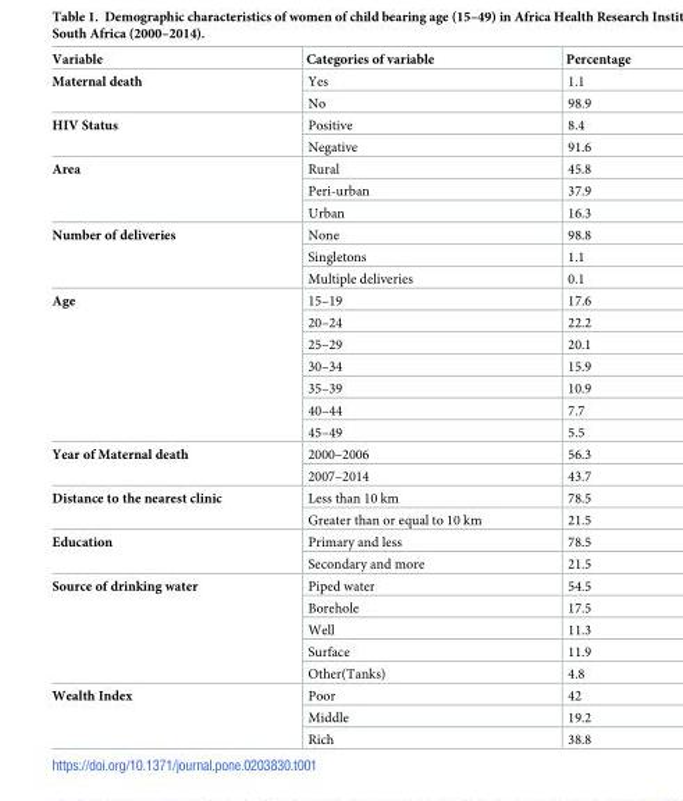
<table><thead><tr><td>Variable</td><td>Categories of variable</td><td>Percentage</td></tr></thead><tbody><tr><td rowspan="2">Maternal death</td><td>Yes</td><td>1.1</td></tr><tr><td>No</td><td>98.9</td></tr><tr><td rowspan="2">HIV Status</td><td>Positive</td><td>8.4</td></tr><tr><td>Negative</td><td>91.6</td></tr><tr><td rowspan="3">Area</td><td>Rural</td><td>45.8</td></tr><tr><td>Peri-urban</td><td>37.9</td></tr><tr><td>Urban</td><td>16.3</td></tr><tr><td rowspan="3">Number of deliveries</td><td>None</td><td>98.8</td></tr><tr><td>Singletons</td><td>1.1</td></tr><tr><td>Multiple deliveries</td><td>0.1</td></tr><tr><td rowspan="7">Age</td><td>15–19</td><td>17.6</td></tr><tr><td>20–24</td><td>22.2</td></tr><tr><td>25–29</td><td>20.1</td></tr><tr><td>30–34</td><td>15.9</td></tr><tr><td>35–39</td><td>10.9</td></tr><tr><td>40–44</td><td>7.7</td></tr><tr><td>45–49</td><td>5.5</td></tr><tr><td rowspan="2">Year of Maternal death</td><td>2000–2006</td><td>56.3</td></tr><tr><td>2007–2014</td><td>43.7</td></tr><tr><td rowspan="2">Distance to the nearest clinic</td><td>Less than 10 km</td><td>78.5</td></tr><tr><td>Greater than or equal to 10 km</td><td>21.5</td></tr><tr><td rowspan="2">Education</td><td>Primary and less</td><td>78.5</td></tr><tr><td>Secondary and more</td><td>21.5</td></tr><tr><td rowspan="5">Source of drinking water</td><td>Piped water</td><td>54.5</td></tr><tr><td>Borehole</td><td>17.5</td></tr><tr><td>Well</td><td>11.3</td></tr><tr><td>Surface</td><td>11.9</td></tr><tr><td>Other(Tanks)</td><td>4.8</td></tr><tr><td rowspan="3">Wealth Index</td><td>Poor</td><td>42</td></tr><tr><td>Middle</td><td>19.2</td></tr><tr><td>Rich</td><td>38.8</td></tr></tbody></table>